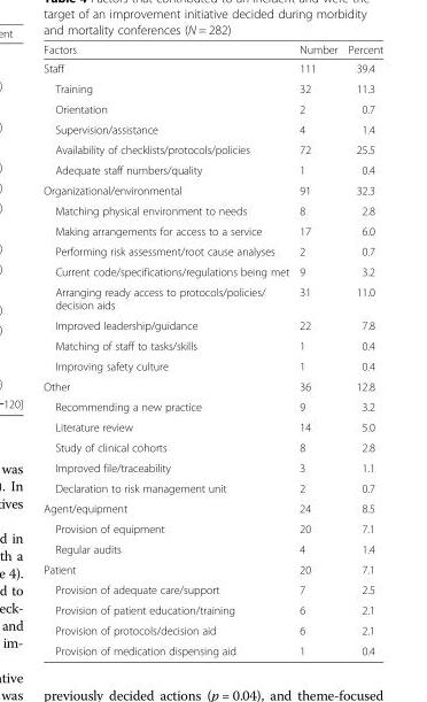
<table><thead><tr><td>Factors</td><td>Number</td><td>Percent</td></tr></thead><tbody><tr><td>Staff</td><td>111</td><td>39.4</td></tr><tr><td>Training</td><td>32</td><td>11.3</td></tr><tr><td>Orientation</td><td>2</td><td>0.7</td></tr><tr><td>Supervision/assistance</td><td>4</td><td>1.4</td></tr><tr><td>Availability of checklists/protocols/policies</td><td>72</td><td>25.5</td></tr><tr><td>Adequate staff numbers/quality</td><td>1</td><td>0.4</td></tr><tr><td>Organizational/environmental</td><td>91</td><td>32.3</td></tr><tr><td>Matching physical environment to needs</td><td>8</td><td>2.8</td></tr><tr><td>Making arrangements for access to a service</td><td>17</td><td>6.0</td></tr><tr><td>Performing risk assessment/root cause analyses</td><td>2</td><td>0.7</td></tr><tr><td>Current code/specifications/regulations being met</td><td>9</td><td>3.2</td></tr><tr><td>Arranging ready access to protocols/policies/ decision aids</td><td>31</td><td>11.0</td></tr><tr><td>Improved leadership/guidance</td><td>22</td><td>7.8</td></tr><tr><td>Matching of staff to tasks/skills</td><td>1</td><td>0.4</td></tr><tr><td>Improving safety culture</td><td>1</td><td>0.4</td></tr><tr><td>Other</td><td>36</td><td>12.8</td></tr><tr><td>Recommending a new practice</td><td>9</td><td>3.2</td></tr><tr><td>Literature review</td><td>14</td><td>5.0</td></tr><tr><td>Study of clinical cohorts</td><td>8</td><td>2.8</td></tr><tr><td>Improved file/traceability</td><td>3</td><td>1.1</td></tr><tr><td>Declaration to risk management unit</td><td>2</td><td>0.7</td></tr><tr><td>Agent/equipment</td><td>24</td><td>8.5</td></tr><tr><td>Provision of equipment</td><td>20</td><td>7.1</td></tr><tr><td>Regular audits</td><td>4</td><td>1.4</td></tr><tr><td>Patient</td><td>20</td><td>7.1</td></tr><tr><td>Provision of adequate care/support</td><td>7</td><td>2.5</td></tr><tr><td>Provision of patient education/training</td><td>6</td><td>2.1</td></tr><tr><td>Provision of protocols/decision aid</td><td>6</td><td>2.1</td></tr><tr><td>Provision of medication dispensing aid</td><td>1</td><td>0.4</td></tr></tbody></table>